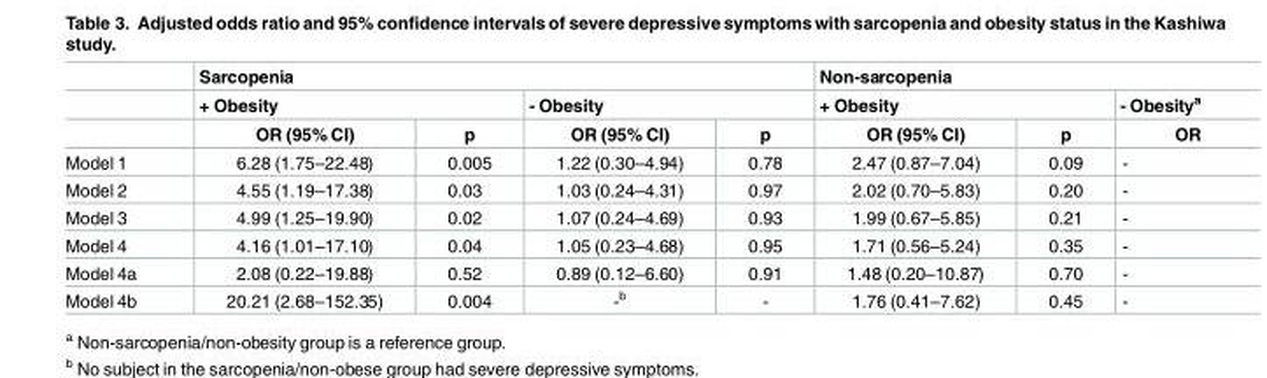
<table><thead><tr><td rowspan="3"></td><td colspan="4">Sarcopenia</td><td colspan="3">Non-sarcopenia</td></tr><tr><td colspan="2">+ Obesity</td><td colspan="2">- Obesity</td><td colspan="2">+ Obesity</td><td rowspan="2">- Obesity<sup>a</sup> OR</td></tr><tr><td>OR (95% CI)</td><td>p</td><td>OR (95% CI)</td><td>p</td><td>OR (95% CI)</td><td>p</td></tr></thead><tbody><tr><td>Model 1</td><td>6.28 (1.75–22.48)</td><td>0.005</td><td>1.22 (0.30–4.94)</td><td>0.78</td><td>2.47 (0.87–7.04)</td><td>0.09</td><td>-</td></tr><tr><td>Model 2</td><td>4.55 (1.19–17.38)</td><td>0.03</td><td>1.03 (0.24–4.31)</td><td>0.97</td><td>2.02 (0.70–5.83)</td><td>0.20</td><td>-</td></tr><tr><td>Model 3</td><td>4.99 (1.25–19.90)</td><td>0.02</td><td>1.07 (0.24–4.69)</td><td>0.93</td><td>1.99 (0.67–5.85)</td><td>0.21</td><td>-</td></tr><tr><td>Model 4</td><td>4.16 (1.01–17.10)</td><td>0.04</td><td>1.05 (0.23–4.68)</td><td>0.95</td><td>1.71 (0.56–5.24)</td><td>0.35</td><td>-</td></tr><tr><td>Model 4a</td><td>2.08 (0.22–19.88)</td><td>0.52</td><td>0.89 (0.12–6.60)</td><td>0.91</td><td>1.48 (0.20–10.87)</td><td>0.70</td><td>-</td></tr><tr><td>Model 4b</td><td>20.21 (2.68–152.35)</td><td>0.004</td><td>-<sup>b</sup></td><td>-</td><td>1.76 (0.41–7.62)</td><td>0.45</td><td>-</td></tr></tbody></table>